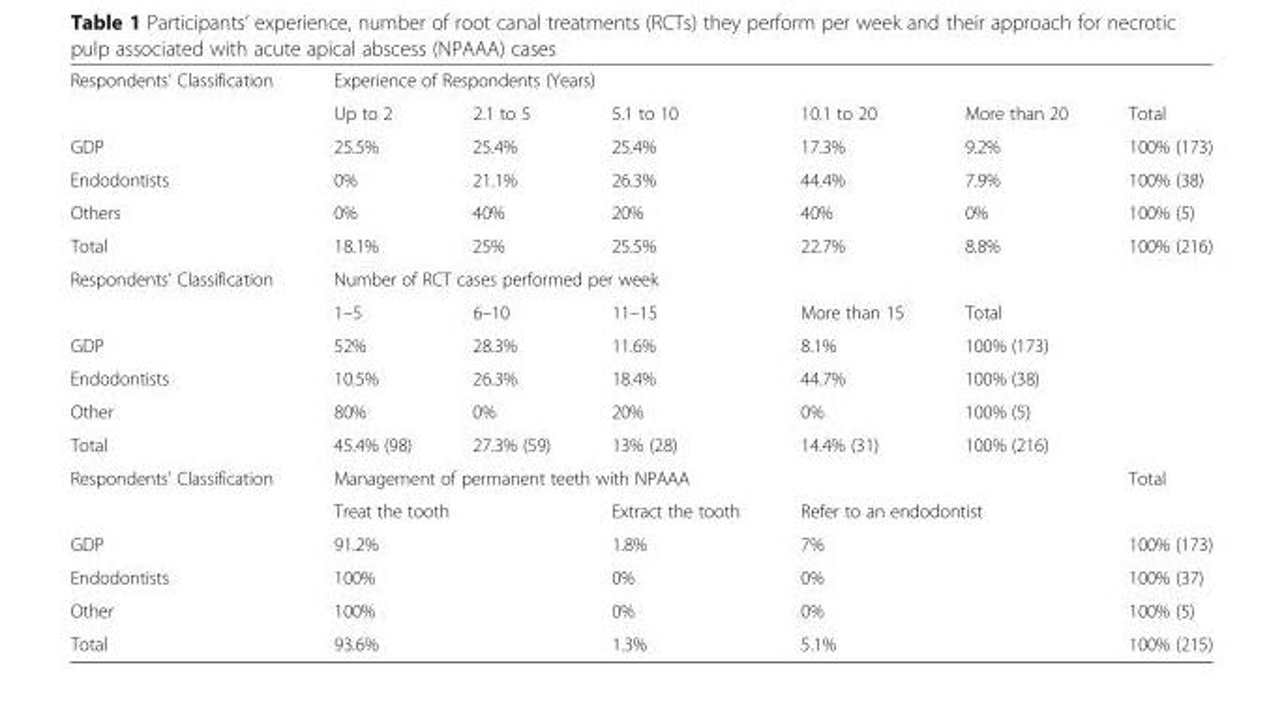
<table><tbody><tr><td rowspan="2">Respondents’ Classification</td><td colspan="5">Experience of Respondents (Years)</td><td></td></tr><tr><td>Up to 2</td><td>2.1 to 5</td><td>5.1 to 10</td><td>10.1 to 20</td><td>More than 20</td><td>Total</td></tr><tr><td>GDP</td><td>25.5%</td><td>25.4%</td><td>25.4%</td><td>17.3%</td><td>9.2%</td><td>100% (173)</td></tr><tr><td>Endodontists</td><td>0%</td><td>21.1%</td><td>26.3%</td><td>44.4%</td><td>7.9%</td><td>100% (38)</td></tr><tr><td>Others</td><td>0%</td><td>40%</td><td>20%</td><td>40%</td><td>0%</td><td>100% (5)</td></tr><tr><td>Total</td><td>18.1%</td><td>25%</td><td>25.5%</td><td>22.7%</td><td>8.8%</td><td>100% (216)</td></tr><tr><td rowspan="2">Respondents’ Classification</td><td colspan="6">Number of RCT cases performed per week</td></tr><tr><td>1–5</td><td>6–10</td><td>11–15</td><td>More than 15</td><td colspan="2">Total</td></tr><tr><td>GDP</td><td>52%</td><td>28.3%</td><td>11.6%</td><td>8.1%</td><td colspan="2">100% (173)</td></tr><tr><td>Endodontists</td><td>10.5%</td><td>26.3%</td><td>18.4%</td><td>44.7%</td><td colspan="2">100% (38)</td></tr><tr><td>Other</td><td>80%</td><td>0%</td><td>20%</td><td>0%</td><td colspan="2">100% (5)</td></tr><tr><td>Total</td><td>45.4% (98)</td><td>27.3% (59)</td><td>13% (28)</td><td>14.4% (31)</td><td colspan="2">100% (216)</td></tr><tr><td rowspan="2">Respondents’ Classification</td><td colspan="5">Management of permanent teeth with NPAAA</td><td rowspan="2">Total</td></tr><tr><td colspan="2">Treat the tooth</td><td>Extract the tooth</td><td colspan="2">Refer to an endodontist</td></tr><tr><td>GDP</td><td colspan="2">91.2%</td><td>1.8%</td><td colspan="2">7%</td><td>100% (173)</td></tr><tr><td>Endodontists</td><td colspan="2">100%</td><td>0%</td><td colspan="2">0%</td><td>100% (37)</td></tr><tr><td>Other</td><td colspan="2">100%</td><td>0%</td><td colspan="2">0%</td><td>100% (5)</td></tr><tr><td>Total</td><td colspan="2">93.6%</td><td>1.3%</td><td colspan="2">5.1%</td><td>100% (215)</td></tr></tbody></table>